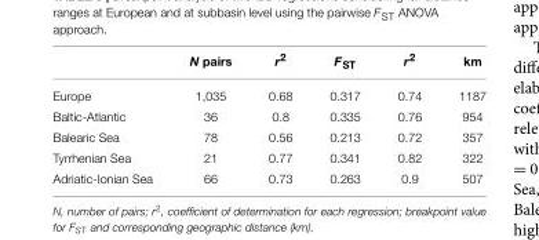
<table><thead><tr><td></td><td>N pairs</td><td>r<sup>2</sup></td><td>F<sub>ST</sub></td><td>r<sup>2</sup></td><td>km</td></tr></thead><tbody><tr><td>Europe</td><td>1,035</td><td>0.68</td><td>0.317</td><td>0.74</td><td>1187</td></tr><tr><td>Baltic-Atlantic</td><td>36</td><td>0.8</td><td>0.335</td><td>0.76</td><td>954</td></tr><tr><td>Balearic Sea</td><td>78</td><td>0.56</td><td>0.213</td><td>0.72</td><td>357</td></tr><tr><td>Tyrrhenian Sea</td><td>21</td><td>0.77</td><td>0.341</td><td>0.82</td><td>322</td></tr><tr><td>Adriatic-Ionian Sea</td><td>66</td><td>0.73</td><td>0.263</td><td>0.9</td><td>507</td></tr></tbody></table>